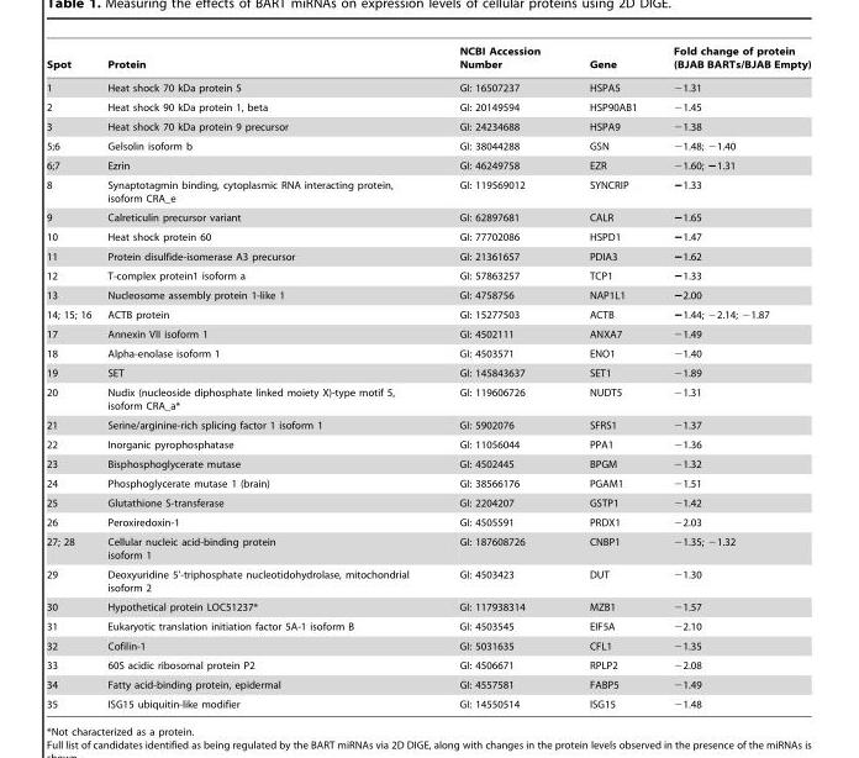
<table><thead><tr><td>Spot</td><td>Protein</td><td>NCBI Accession Number</td><td>Gene</td><td>Fold change of protein (BJAB BARTs/BJAB Empty)</td></tr></thead><tbody><tr><td>1</td><td>Heat shock 70 kDa protein 5</td><td>GI: 16507237</td><td>HSPA5</td><td>−1.31</td></tr><tr><td>2</td><td>Heat shock 90 kDa protein 1, beta</td><td>GI: 20149594</td><td>HSP90AB1</td><td>−1.45</td></tr><tr><td>3</td><td>Heat shock 70 kDa protein 9 precursor</td><td>GI: 24234688</td><td>HSPA9</td><td>−1.38</td></tr><tr><td>5;6</td><td>Gelsolin isoform b</td><td>GI: 38044288</td><td>GSN</td><td>−1.48; −1.40</td></tr><tr><td>6;7</td><td>Ezrin</td><td>GI: 46249758</td><td>EZR</td><td>−1.60; −1.31</td></tr><tr><td>8</td><td>Synaptotagmin binding, cytoplasmic RNA interacting protein, isoform CRA_e</td><td>GI: 119569012</td><td>SYNCRIP</td><td>−1.33</td></tr><tr><td>9</td><td>Calreticulin precursor variant</td><td>GI: 62897681</td><td>CALR</td><td>−1.65</td></tr><tr><td>10</td><td>Heat shock protein 60</td><td>GI: 77702086</td><td>HSPD1</td><td>−1.47</td></tr><tr><td>11</td><td>Protein disulfide-isomerase A3 precursor</td><td>GI: 21361657</td><td>PDIA3</td><td>−1.62</td></tr><tr><td>12</td><td>T-complex protein1 isoform a</td><td>GI: 57863257</td><td>TCP1</td><td>−1.33</td></tr><tr><td>13</td><td>Nucleosome assembly protein 1-like 1</td><td>GI: 4758756</td><td>NAP1L1</td><td>−2.00</td></tr><tr><td>14; 15; 16</td><td>ACTB protein</td><td>GI: 15277503</td><td>ACTB</td><td>−1.44; −2.14; −1.87</td></tr><tr><td>17</td><td>Annexin VII isoform 1</td><td>GI: 4502111</td><td>ANXA7</td><td>−1.49</td></tr><tr><td>18</td><td>Alpha-enolase isoform 1</td><td>GI: 4503571</td><td>ENO1</td><td>−1.40</td></tr><tr><td>19</td><td>SET</td><td>GI: 145843637</td><td>SET1</td><td>−1.89</td></tr><tr><td>20</td><td>Nudix (nucleoside diphosphate linked moiety X)-type motif 5, isoform CRA_a*</td><td>GI: 119606726</td><td>NUDT5</td><td>−1.31</td></tr><tr><td>21</td><td>Serine/arginine-rich splicing factor 1 isoform 1</td><td>GI: 5902076</td><td>SFRS1</td><td>−1.37</td></tr><tr><td>22</td><td>Inorganic pyrophosphatase</td><td>GI: 11056044</td><td>PPA1</td><td>−1.36</td></tr><tr><td>23</td><td>Bisphosphoglycerate mutase</td><td>GI: 4502445</td><td>BPGM</td><td>−1.32</td></tr><tr><td>24</td><td>Phosphoglycerate mutase 1 (brain)</td><td>GI: 38566176</td><td>PGAM1</td><td>−1.51</td></tr><tr><td>25</td><td>Glutathione S-transferase</td><td>GI: 2204207</td><td>GSTP1</td><td>−1.42</td></tr><tr><td>26</td><td>Peroxiredoxin-1</td><td>GI: 4505591</td><td>PRDX1</td><td>−2.03</td></tr><tr><td>27; 28</td><td>Cellular nucleic acid-binding protein isoform 1</td><td>GI: 187608726</td><td>CNBP1</td><td>−1.35; −1.32</td></tr><tr><td>29</td><td>Deoxyuridine 5’-triphosphate nucleotidohydrolase, mitochondrial isoform 2</td><td>GI: 4503423</td><td>DUT</td><td>−1.30</td></tr><tr><td>30</td><td>Hypothetical protein LOC51237*</td><td>GI: 117938314</td><td>MZB1</td><td>−1.57</td></tr><tr><td>31</td><td>Eukaryotic translation initiation factor 5A-1 isoform B</td><td>GI: 4503545</td><td>EIF5A</td><td>−2.10</td></tr><tr><td>32</td><td>Cofilin-1</td><td>GI: 5031635</td><td>CFL1</td><td>−1.35</td></tr><tr><td>33</td><td>60S acidic ribosomal protein P2</td><td>GI: 4506671</td><td>RPLP2</td><td>−2.08</td></tr><tr><td>34</td><td>Fatty acid-binding protein, epidermal</td><td>GI: 4557581</td><td>FABP5</td><td>−1.49</td></tr><tr><td>35</td><td>ISG15 ubiquitin-like modifier</td><td>GI: 14550514</td><td>ISG15</td><td>−1.48</td></tr></tbody></table>